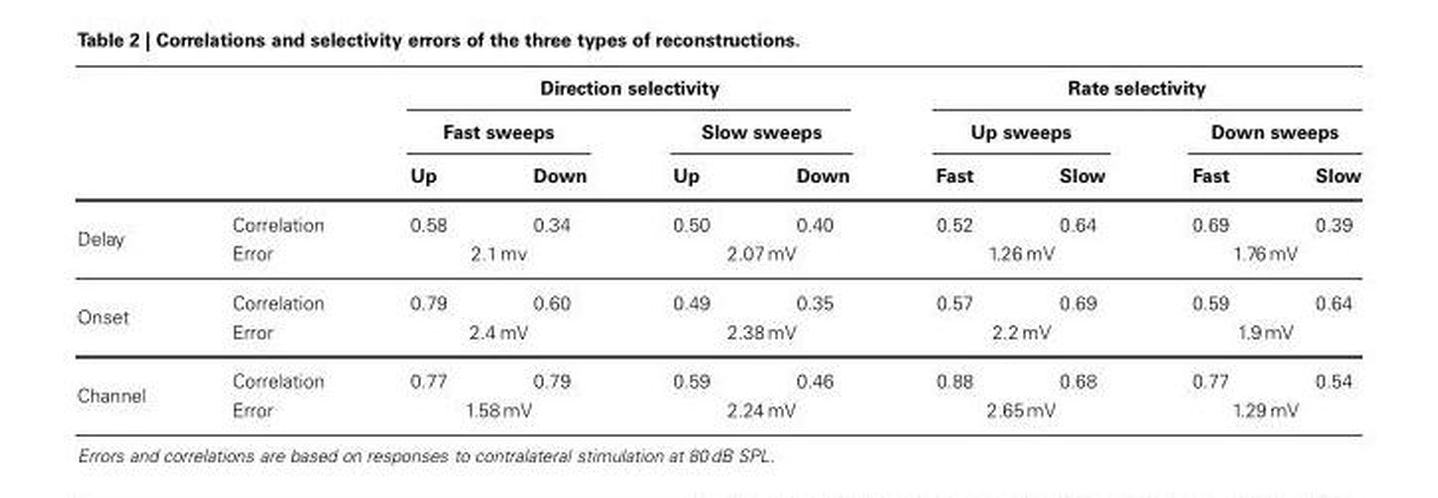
<table><thead><tr><td rowspan="3"></td><td rowspan="3"></td><td colspan="4">Direction selectivity</td><td colspan="4">Rate selectivity</td></tr><tr><td colspan="2">Fast sweeps</td><td colspan="2">Slow sweeps</td><td colspan="2">Up sweeps</td><td colspan="2">Down sweeps</td></tr><tr><td>Up</td><td>Down</td><td>Up</td><td>Down</td><td>Fast</td><td>Slow</td><td>Fast</td><td>Slow</td></tr></thead><tbody><tr><td rowspan="2">Delay</td><td>Correlation</td><td>0.58</td><td>0.34</td><td>0.50</td><td>0.40</td><td>0.52</td><td>0.64</td><td>0.69</td><td>0.39</td></tr><tr><td>Error</td><td colspan="2">2.1 mv</td><td colspan="2">2.07 mV</td><td colspan="2">1.26 mV</td><td colspan="2">1.76 mV</td></tr><tr><td rowspan="2">Onset</td><td>Correlation</td><td>0.79</td><td>0.60</td><td>0.49</td><td>0.35</td><td>0.57</td><td>0.69</td><td>0.59</td><td>0.64</td></tr><tr><td>Error</td><td colspan="2">2.4 mV</td><td colspan="2">2.38 mV</td><td colspan="2">2.2 mV</td><td colspan="2">1.9 mV</td></tr><tr><td rowspan="2">Channel</td><td>Correlation</td><td>0.77</td><td>0.79</td><td>0.59</td><td>0.46</td><td>0.88</td><td>0.68</td><td>0.77</td><td>0.54</td></tr><tr><td>Error</td><td colspan="2">1.58 mV</td><td colspan="2">2.24 mV</td><td colspan="2">2.65 mV</td><td colspan="2">1.29 mV</td></tr></tbody></table>